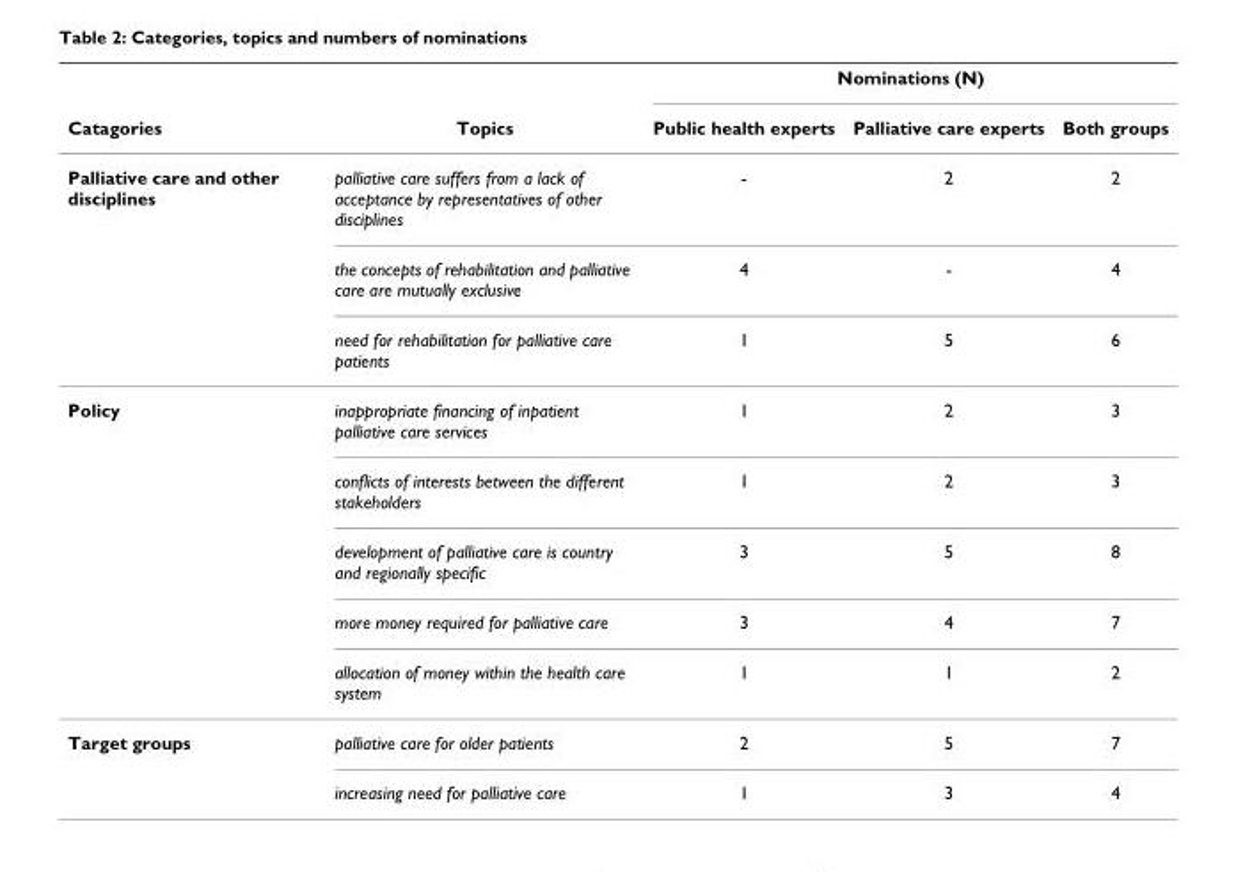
<table><thead><tr><td rowspan="2">Catagories</td><td rowspan="2">Topics</td><td colspan="3">Nominations (N)</td></tr><tr><td>Public health experts</td><td>Palliative care experts</td><td>Both groups</td></tr></thead><tbody><tr><td rowspan="3">Palliative care and other disciplines</td><td>palliative care suffers from a lack of acceptance by representatives of other disciplines</td><td>-</td><td>2</td><td>2</td></tr><tr><td>the concepts of rehabilitation and palliative care are mutually exclusive</td><td>4</td><td>-</td><td>4</td></tr><tr><td>need for rehabilitation for palliative care patients</td><td>1</td><td>5</td><td>6</td></tr><tr><td rowspan="5">Policy</td><td>inappropriate financing of inpatient palliative care services</td><td>1</td><td>2</td><td>3</td></tr><tr><td>conflicts of interests between the different stakeholders</td><td>1</td><td>2</td><td>3</td></tr><tr><td>development of palliative care is country and regionally specific</td><td>3</td><td>5</td><td>8</td></tr><tr><td>more money required for palliative care</td><td>3</td><td>4</td><td>7</td></tr><tr><td>allocation of money within the health care system</td><td>1</td><td>1</td><td>2</td></tr><tr><td rowspan="2">Target groups</td><td>palliative care for older patients</td><td>2</td><td>5</td><td>7</td></tr><tr><td>increasing need for palliative care</td><td>1</td><td>3</td><td>4</td></tr></tbody></table>